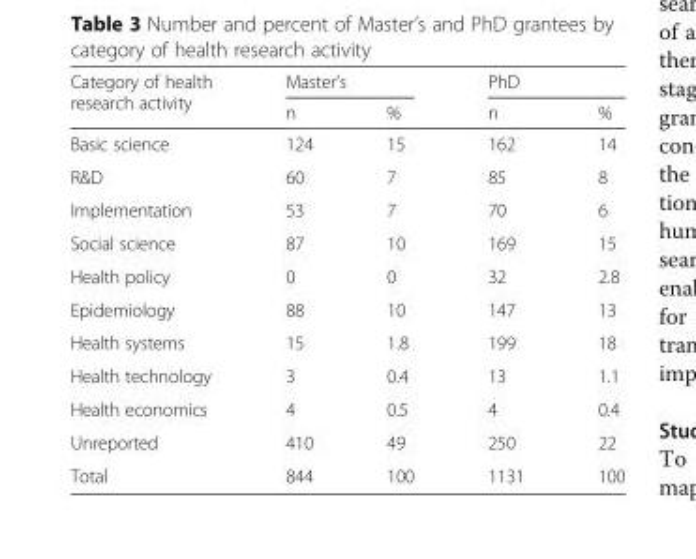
<table><thead><tr><td rowspan="2">Category of health research activity</td><td colspan="2">Master’s</td><td colspan="2">PhD</td></tr><tr><td>n</td><td>%</td><td>n</td><td>%</td></tr></thead><tbody><tr><td>Basic science</td><td>124</td><td>15</td><td>162</td><td>14</td></tr><tr><td>R&amp;D</td><td>60</td><td>7</td><td>85</td><td>8</td></tr><tr><td>Implementation</td><td>53</td><td>7</td><td>70</td><td>6</td></tr><tr><td>Social science</td><td>87</td><td>10</td><td>169</td><td>15</td></tr><tr><td>Health policy</td><td>0</td><td>0</td><td>32</td><td>2.8</td></tr><tr><td>Epidemiology</td><td>88</td><td>10</td><td>147</td><td>13</td></tr><tr><td>Health systems</td><td>15</td><td>1.8</td><td>199</td><td>18</td></tr><tr><td>Health technology</td><td>3</td><td>0.4</td><td>13</td><td>1.1</td></tr><tr><td>Health economics</td><td>4</td><td>0.5</td><td>4</td><td>0.4</td></tr><tr><td>Unreported</td><td>410</td><td>49</td><td>250</td><td>22</td></tr><tr><td>Total</td><td>844</td><td>100</td><td>1131</td><td>100</td></tr></tbody></table>